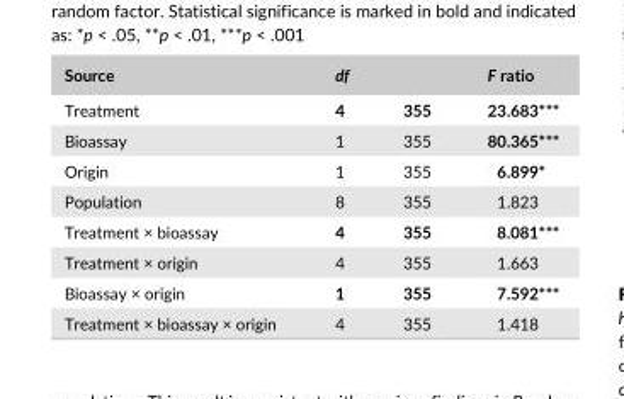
<table><thead><tr><td rowspan="2">Source Treatment</td><td colspan="2">df</td><td rowspan="2">F ratio 23.683***</td></tr><tr><td>4</td><td>355</td></tr></thead><tbody><tr><td>Bioassay</td><td>1</td><td>355</td><td>80.365***</td></tr><tr><td>Origin</td><td>1</td><td>355</td><td>6.899*</td></tr><tr><td>Population</td><td>8</td><td>355</td><td>1.823</td></tr><tr><td>Treatment × bioassay</td><td>4</td><td>355</td><td>8.081***</td></tr><tr><td>Treatment × origin</td><td>4</td><td>355</td><td>1.663</td></tr><tr><td>Bioassay × origin</td><td>1</td><td>355</td><td>7.592***</td></tr><tr><td>Treatment × bioassay × origin</td><td>4</td><td>355</td><td>1.418</td></tr></tbody></table>